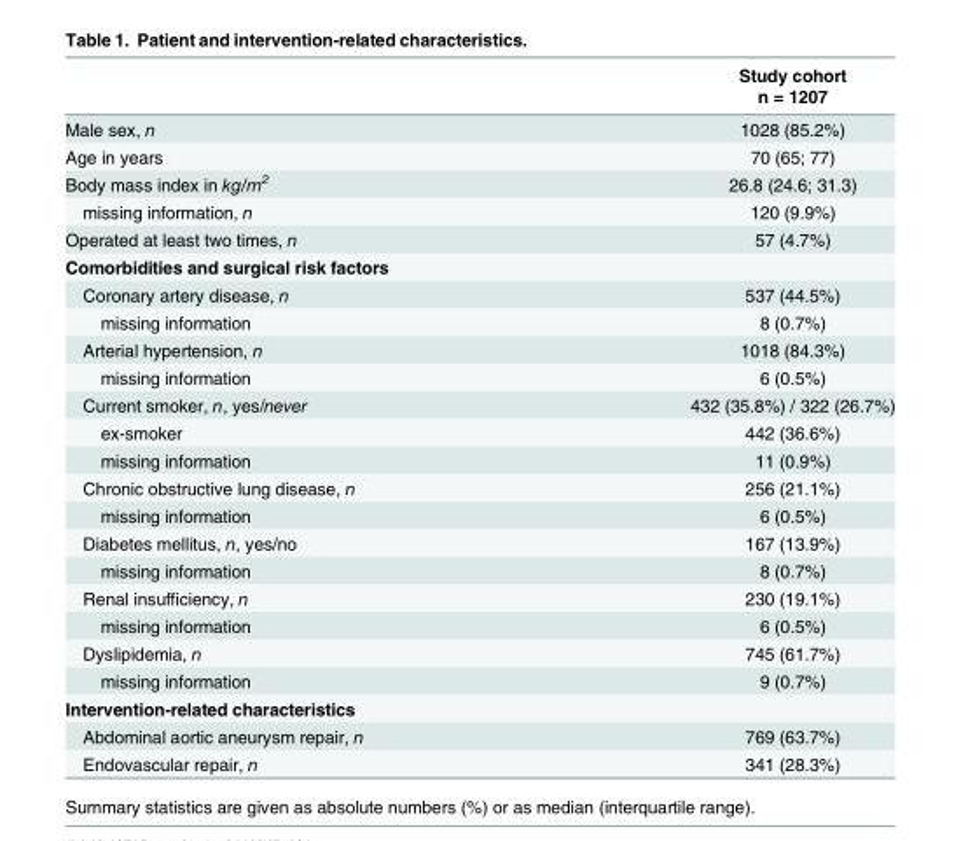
<table><thead><tr><td rowspan="2"></td><td rowspan="2">Study cohort n = 1207</td></tr><tr></tr></thead><tbody><tr><td>Male sex, n</td><td>1028 (85.2%)</td></tr><tr><td>Age in years</td><td>70 (65; 77)</td></tr><tr><td>Body mass index in kg/m<sup>2</sup></td><td>26.8 (24.6; 31.3)</td></tr><tr><td>missing information, n</td><td>120 (9.9%)</td></tr><tr><td>Operated at least two times, n</td><td>57 (4.7%)</td></tr><tr><td colspan="2">Comorbidities and surgical risk factors</td></tr><tr><td>Coronary artery disease, n</td><td>537 (44.5%)</td></tr><tr><td>missing information</td><td>8 (0.7%)</td></tr><tr><td>Arterial hypertension, n</td><td>1018 (84.3%)</td></tr><tr><td>missing information</td><td>6 (0.5%)</td></tr><tr><td>Current smoker, n, yes/never</td><td>432 (35.8%) / 322 (26.7%)</td></tr><tr><td>ex-smoker</td><td>442 (36.6%)</td></tr><tr><td>missing information</td><td>11 (0.9%)</td></tr><tr><td>Chronic obstructive lung disease, n</td><td>256 (21.1%)</td></tr><tr><td>missing information</td><td>6 (0.5%)</td></tr><tr><td>Diabetes mellitus, n, yes/no</td><td>167 (13.9%)</td></tr><tr><td>missing information</td><td>8 (0.7%)</td></tr><tr><td>Renal insufficiency, n</td><td>230 (19.1%)</td></tr><tr><td>missing information</td><td>6 (0.5%)</td></tr><tr><td>Dyslipidemia, n</td><td>745 (61.7%)</td></tr><tr><td>missing information</td><td>9 (0.7%)</td></tr><tr><td colspan="2">Intervention-related characteristics</td></tr><tr><td>Abdominal aortic aneurysm repair, n</td><td>769 (63.7%)</td></tr><tr><td>Endovascular repair, n</td><td>341 (28.3%)</td></tr></tbody></table>